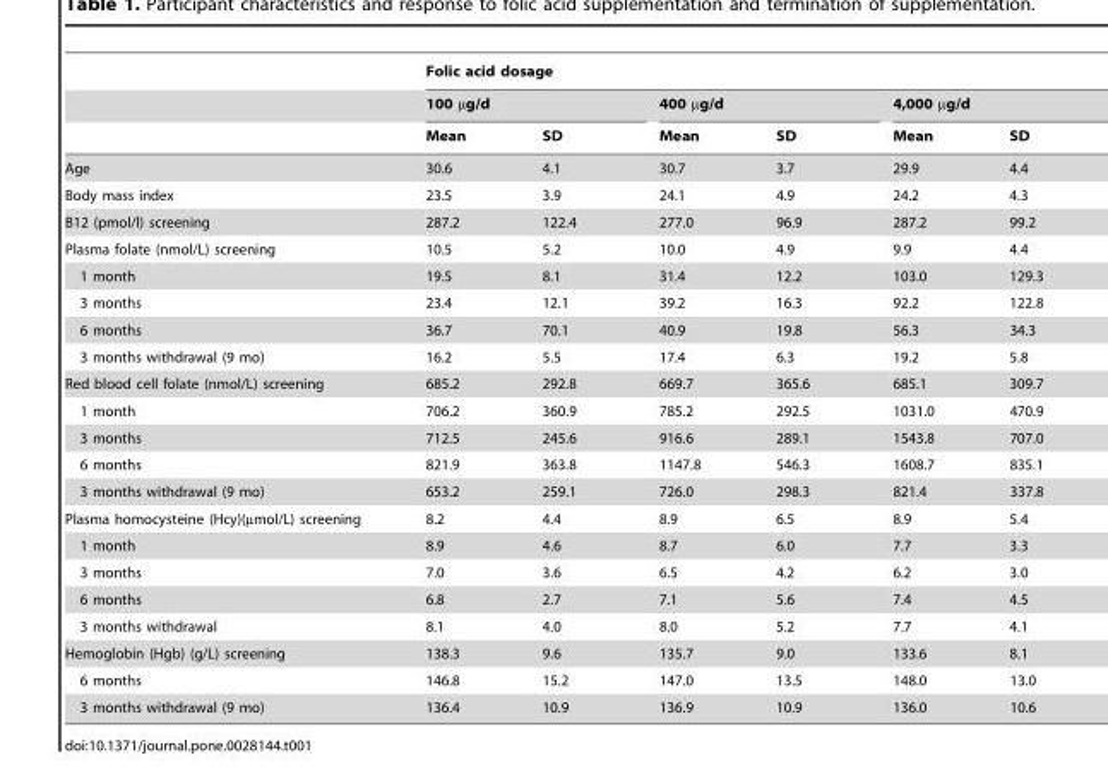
<table><thead><tr><td rowspan="3"></td><td colspan="6">Folic acid dosage</td></tr><tr><td colspan="2">100 µg/d</td><td colspan="2">400 µg/d</td><td colspan="2">4,000 µg/d</td></tr><tr><td>Mean</td><td>SD</td><td>Mean</td><td>SD</td><td>Mean</td><td>SD</td></tr></thead><tbody><tr><td>Age</td><td>30.6</td><td>4.1</td><td>30.7</td><td>3.7</td><td>29.9</td><td>4.4</td></tr><tr><td>Body mass index</td><td>23.5</td><td>3.9</td><td>24.1</td><td>4.9</td><td>24.2</td><td>4.3</td></tr><tr><td>B12 (pmol/l) screening</td><td>287.2</td><td>122.4</td><td>277.0</td><td>96.9</td><td>287.2</td><td>99.2</td></tr><tr><td>Plasma folate (nmol/L) screening</td><td>10.5</td><td>5.2</td><td>10.0</td><td>4.9</td><td>9.9</td><td>4.4</td></tr><tr><td>1 month</td><td>19.5</td><td>8.1</td><td>31.4</td><td>12.2</td><td>103.0</td><td>129.3</td></tr><tr><td>3 months</td><td>23.4</td><td>12.1</td><td>39.2</td><td>16.3</td><td>92.2</td><td>122.8</td></tr><tr><td>6 months</td><td>36.7</td><td>70.1</td><td>40.9</td><td>19.8</td><td>56.3</td><td>34.3</td></tr><tr><td>3 months withdrawal (9 mo)</td><td>16.2</td><td>5.5</td><td>17.4</td><td>6.3</td><td>19.2</td><td>5.8</td></tr><tr><td>Red blood cell folate (nmol/L) screening</td><td>685.2</td><td>292.8</td><td>669.7</td><td>365.6</td><td>685.1</td><td>309.7</td></tr><tr><td>1 month</td><td>706.2</td><td>360.9</td><td>785.2</td><td>292.5</td><td>1031.0</td><td>470.9</td></tr><tr><td>3 months</td><td>712.5</td><td>245.6</td><td>916.6</td><td>289.1</td><td>1543.8</td><td>707.0</td></tr><tr><td>6 months</td><td>821.9</td><td>363.8</td><td>1147.8</td><td>546.3</td><td>1608.7</td><td>835.1</td></tr><tr><td>3 months withdrawal (9 mo)</td><td>653.2</td><td>259.1</td><td>726.0</td><td>298.3</td><td>821.4</td><td>337.8</td></tr><tr><td>Plasma homocysteine (Hcy)(µmol/L) screening</td><td>8.2</td><td>4.4</td><td>8.9</td><td>6.5</td><td>8.9</td><td>5.4</td></tr><tr><td>1 month</td><td>8.9</td><td>4.6</td><td>8.7</td><td>6.0</td><td>7.7</td><td>3.3</td></tr><tr><td>3 months</td><td>7.0</td><td>3.6</td><td>6.5</td><td>4.2</td><td>6.2</td><td>3.0</td></tr><tr><td>6 months</td><td>6.8</td><td>2.7</td><td>7.1</td><td>5.6</td><td>7.4</td><td>4.5</td></tr><tr><td>3 months withdrawal</td><td>8.1</td><td>4.0</td><td>8.0</td><td>5.2</td><td>7.7</td><td>4.1</td></tr><tr><td>Hemoglobin (Hgb) (g/L) screening</td><td>138.3</td><td>9.6</td><td>135.7</td><td>9.0</td><td>133.6</td><td>8.1</td></tr><tr><td>6 months</td><td>146.8</td><td>15.2</td><td>147.0</td><td>13.5</td><td>148.0</td><td>13.0</td></tr><tr><td>3 months withdrawal (9 mo)</td><td>136.4</td><td>10.9</td><td>136.9</td><td>10.9</td><td>136.0</td><td>10.6</td></tr></tbody></table>